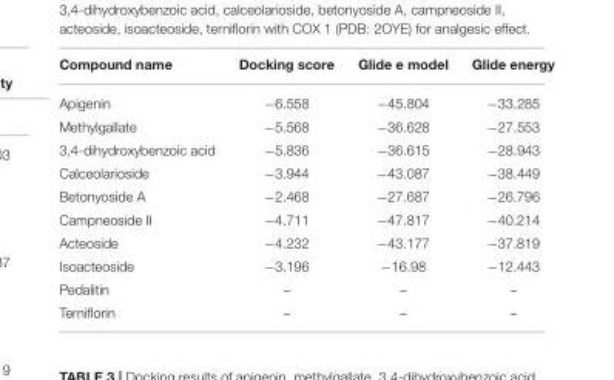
<table><thead><tr><td>Compound name</td><td>Docking score</td><td>Glide e model</td><td>Glide energy</td></tr></thead><tbody><tr><td>Apigenin</td><td>−6.558</td><td>−45.804</td><td>−33.285</td></tr><tr><td>Methylgallate</td><td>−5.568</td><td>−36.628</td><td>−27.553</td></tr><tr><td>3,4-dihydroxybenzoic acid</td><td>−5.836</td><td>−36.615</td><td>−28.943</td></tr><tr><td>Calceolarioside</td><td>−3.944</td><td>−43.087</td><td>−38.449</td></tr><tr><td>Betonyoside A</td><td>−2.468</td><td>−27.687</td><td>−26.796</td></tr><tr><td>Campneoside II</td><td>−4.711</td><td>−47.817</td><td>−40.214</td></tr><tr><td>Acteoside</td><td>−4.232</td><td>−43.177</td><td>−37.819</td></tr><tr><td>Isoacteoside</td><td>−3.196</td><td>−16.98</td><td>−12.443</td></tr><tr><td>Pedalitin</td><td>–</td><td>–</td><td>–</td></tr><tr><td>Terniflorin</td><td>–</td><td>–</td><td>–</td></tr></tbody></table>